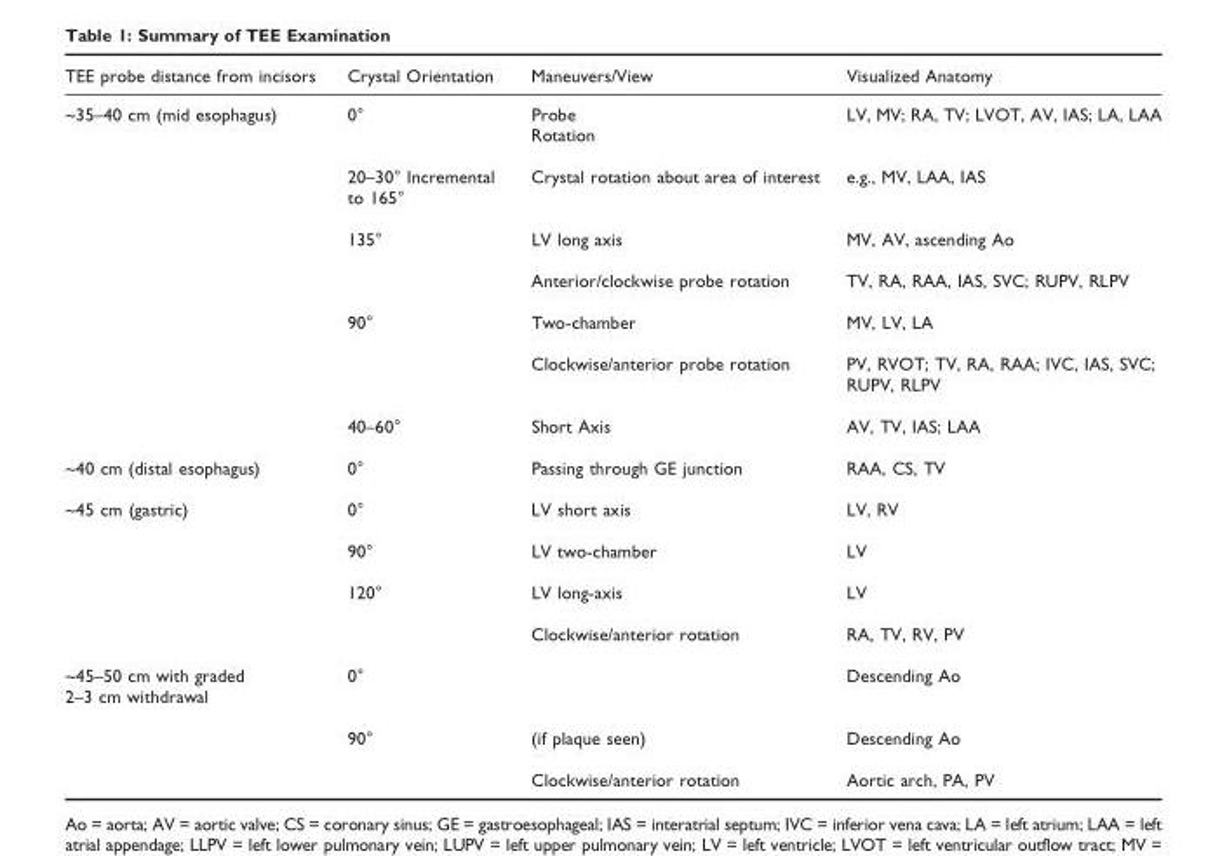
<table><thead><tr><td>TEE probe distance from incisors</td><td>Crystal Orientation</td><td>Maneuvers/View</td><td>Visualized Anatomy</td></tr></thead><tbody><tr><td rowspan="7">~35–40 cm (mid esophagus)</td><td>0°</td><td>Probe Rotation</td><td>LV, MV; RA, TV; LVOT, AV, IAS; LA, LAA</td></tr><tr><td>20–30° Incremental to 165°</td><td>Crystal rotation about area of interest</td><td>e.g., MV, LAA, IAS</td></tr><tr><td>135°</td><td>LV long axis</td><td>MV, AV, ascending Ao</td></tr><tr><td></td><td>Anterior/clockwise probe rotation</td><td>TV, RA, RAA, IAS, SVC; RUPV, RLPV</td></tr><tr><td>90°</td><td>Two-chamber</td><td>MV, LV, LA</td></tr><tr><td></td><td>Clockwise/anterior probe rotation</td><td>PV, RVOT; TV, RA, RAA; IVC, IAS, SVC; RUPV, RLPV</td></tr><tr><td>40–60°</td><td>Short Axis</td><td>AV, TV, IAS; LAA</td></tr><tr><td>~40 cm (distal esophagus)</td><td>0°</td><td>Passing through GE junction</td><td>RAA, CS, TV</td></tr><tr><td rowspan="4">~45 cm (gastric)</td><td>0°</td><td>LV short axis</td><td>LV, RV</td></tr><tr><td>90°</td><td>LV two-chamber</td><td>LV</td></tr><tr><td>120°</td><td>LV long-axis</td><td>LV</td></tr><tr><td></td><td>Clockwise/anterior rotation</td><td>RA, TV, RV, PV</td></tr><tr><td rowspan="3">~45–50 cm with graded 2–3 cm withdrawal</td><td>0°</td><td></td><td>Descending Ao</td></tr><tr><td>90°</td><td>(if plaque seen)</td><td>Descending Ao</td></tr><tr><td></td><td>Clockwise/anterior rotation</td><td>Aortic arch, PA, PV</td></tr></tbody></table>